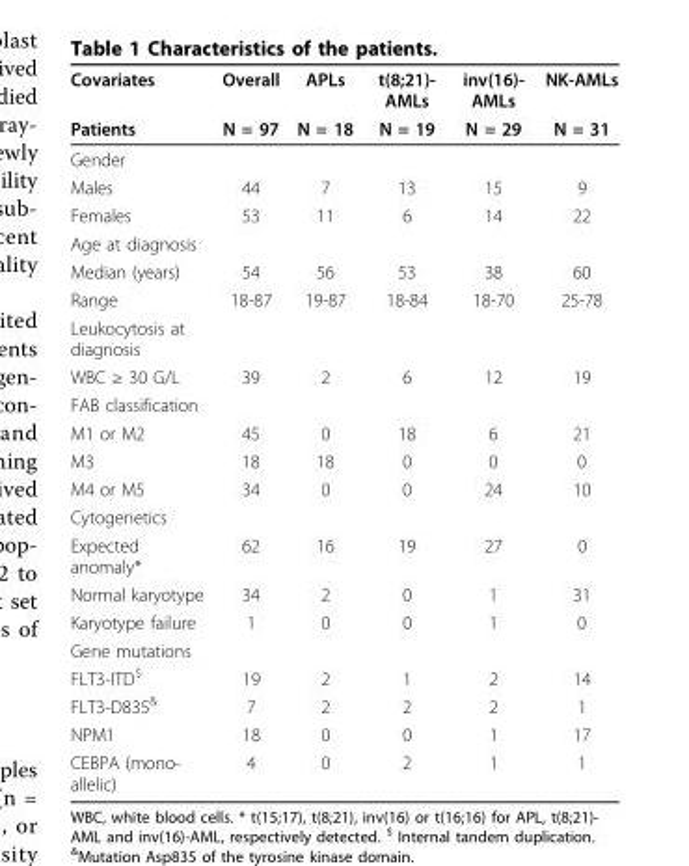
<table><thead><tr><td rowspan="2">Covariates Patients</td><td rowspan="2">Overall N = 97</td><td rowspan="2">APLs N = 18</td><td rowspan="2">t(8;21)- AMLs N = 19</td><td rowspan="2">inv(16)- AMLs N = 29</td><td rowspan="2">NK-AMLs N = 31</td></tr><tr></tr></thead><tbody><tr><td colspan="6">Gender</td></tr><tr><td>Males</td><td>44</td><td>7</td><td>13</td><td>15</td><td>9</td></tr><tr><td>Females</td><td>53</td><td>11</td><td>6</td><td>14</td><td>22</td></tr><tr><td colspan="6">Age at diagnosis</td></tr><tr><td>Median (years)</td><td>54</td><td>56</td><td>53</td><td>38</td><td>60</td></tr><tr><td>Range</td><td>18-87</td><td>19-87</td><td>18-84</td><td>18-70</td><td>25-78</td></tr><tr><td colspan="6">Leukocytosis at diagnosis</td></tr><tr><td>WBC ≥ 30 G/L</td><td>39</td><td>2</td><td>6</td><td>12</td><td>19</td></tr><tr><td colspan="6">FAB classification</td></tr><tr><td>M1 or M2</td><td>45</td><td>0</td><td>18</td><td>6</td><td>21</td></tr><tr><td>M3</td><td>18</td><td>18</td><td>0</td><td>0</td><td>0</td></tr><tr><td>M4 or M5</td><td>34</td><td>0</td><td>0</td><td>24</td><td>10</td></tr><tr><td colspan="6">Cytogenetics</td></tr><tr><td>Expected anomaly*</td><td>62</td><td>16</td><td>19</td><td>27</td><td>0</td></tr><tr><td>Normal karyotype</td><td>34</td><td>2</td><td>0</td><td>1</td><td>31</td></tr><tr><td>Karyotype failure</td><td>1</td><td>0</td><td>0</td><td>1</td><td>0</td></tr><tr><td colspan="6">Gene mutations</td></tr><tr><td>FLT3-ITD<sup>$</sup></td><td>19</td><td>2</td><td>1</td><td>2</td><td>14</td></tr><tr><td>FLT3-D835<sup>&amp;</sup></td><td>7</td><td>2</td><td>2</td><td>2</td><td>1</td></tr><tr><td>NPM1</td><td>18</td><td>0</td><td>0</td><td>1</td><td>17</td></tr><tr><td>CEBPA (mono- allelic)</td><td>4</td><td>0</td><td>2</td><td>1</td><td>1</td></tr></tbody></table>